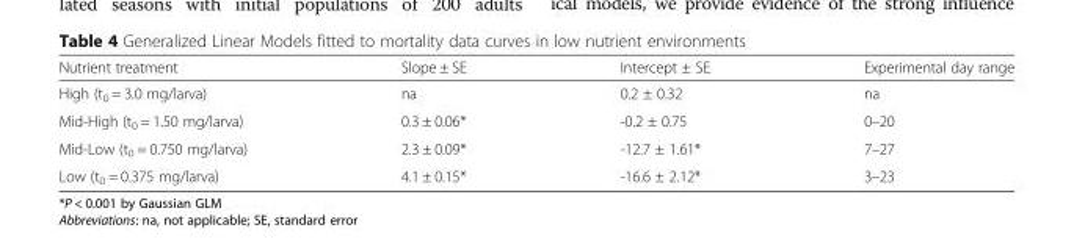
<table><thead><tr><td>Nutrient treatment</td><td>Slope ± SE</td><td>Intercept ± SE</td><td>Experimental day range</td></tr></thead><tbody><tr><td>High (t<sub>0</sub> = 3.0 mg/larva)</td><td>na</td><td>0.2 ± 0.32</td><td>na</td></tr><tr><td>Mid-High (t<sub>0</sub> = 1.50 mg/larva)</td><td>0.3 ± 0.06*</td><td>-0.2 ± 0.75</td><td>0–20</td></tr><tr><td>Mid-Low (t<sub>0</sub> = 0.750 mg/larva)</td><td>2.3 ± 0.09*</td><td>-12.7 ± 1.61*</td><td>7–27</td></tr><tr><td>Low (t<sub>0</sub> = 0.375 mg/larva)</td><td>4.1 ± 0.15*</td><td>-16.6 ± 2.12*</td><td>3–23</td></tr></tbody></table>